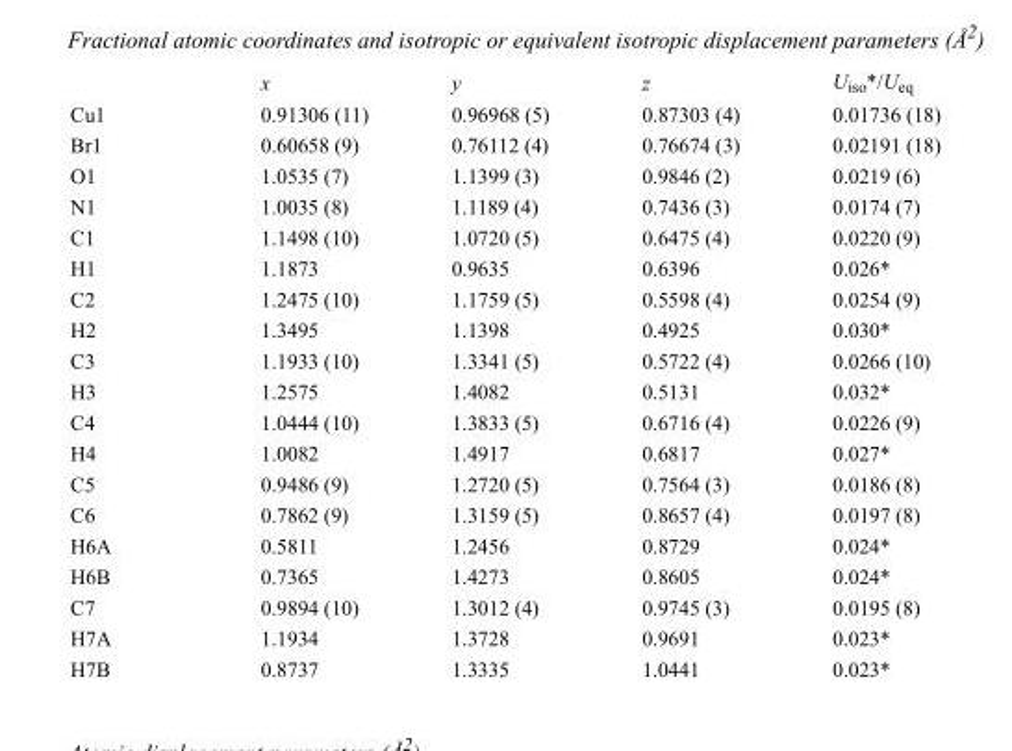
<table><thead><tr><td></td><td>x</td><td>y</td><td>z</td><td>U<sub>iso</sub>*/U<sub>eq</sub></td></tr></thead><tbody><tr><td>Cu1</td><td>0.91306 (11)</td><td>0.96968 (5)</td><td>0.87303 (4)</td><td>0.01736 (18)</td></tr><tr><td>Br1</td><td>0.60658 (9)</td><td>0.76112 (4)</td><td>0.76674 (3)</td><td>0.02191 (18)</td></tr><tr><td>O1</td><td>1.0535 (7)</td><td>1.1399 (3)</td><td>0.9846 (2)</td><td>0.0219 (6)</td></tr><tr><td>N1</td><td>1.0035 (8)</td><td>1.1189 (4)</td><td>0.7436 (3)</td><td>0.0174 (7)</td></tr><tr><td>C1</td><td>1.1498 (10)</td><td>1.0720 (5)</td><td>0.6475 (4)</td><td>0.0220 (9)</td></tr><tr><td>H1</td><td>1.1873</td><td>0.9635</td><td>0.6396</td><td>0.026*</td></tr><tr><td>C2</td><td>1.2475 (10)</td><td>1.1759 (5)</td><td>0.5598 (4)</td><td>0.0254 (9)</td></tr><tr><td>H2</td><td>1.3495</td><td>1.1398</td><td>0.4925</td><td>0.030*</td></tr><tr><td>C3</td><td>1.1933 (10)</td><td>1.3341 (5)</td><td>0.5722 (4)</td><td>0.0266 (10)</td></tr><tr><td>H3</td><td>1.2575</td><td>1.4082</td><td>0.5131</td><td>0.032*</td></tr><tr><td>C4</td><td>1.0444 (10)</td><td>1.3833 (5)</td><td>0.6716 (4)</td><td>0.0226 (9)</td></tr><tr><td>H4</td><td>1.0082</td><td>1.4917</td><td>0.6817</td><td>0.027*</td></tr><tr><td>C5</td><td>0.9486 (9)</td><td>1.2720 (5)</td><td>0.7564 (3)</td><td>0.0186 (8)</td></tr><tr><td>C6</td><td>0.7862 (9)</td><td>1.3159 (5)</td><td>0.8657 (4)</td><td>0.0197 (8)</td></tr><tr><td>H6A</td><td>0.5811</td><td>1.2456</td><td>0.8729</td><td>0.024*</td></tr><tr><td>H6B</td><td>0.7365</td><td>1.4273</td><td>0.8605</td><td>0.024*</td></tr><tr><td>C7</td><td>0.9894 (10)</td><td>1.3012 (4)</td><td>0.9745 (3)</td><td>0.0195 (8)</td></tr><tr><td>H7A</td><td>1.1934</td><td>1.3728</td><td>0.9691</td><td>0.023*</td></tr><tr><td>H7B</td><td>0.8737</td><td>1.3335</td><td>1.0441</td><td>0.023*</td></tr></tbody></table>